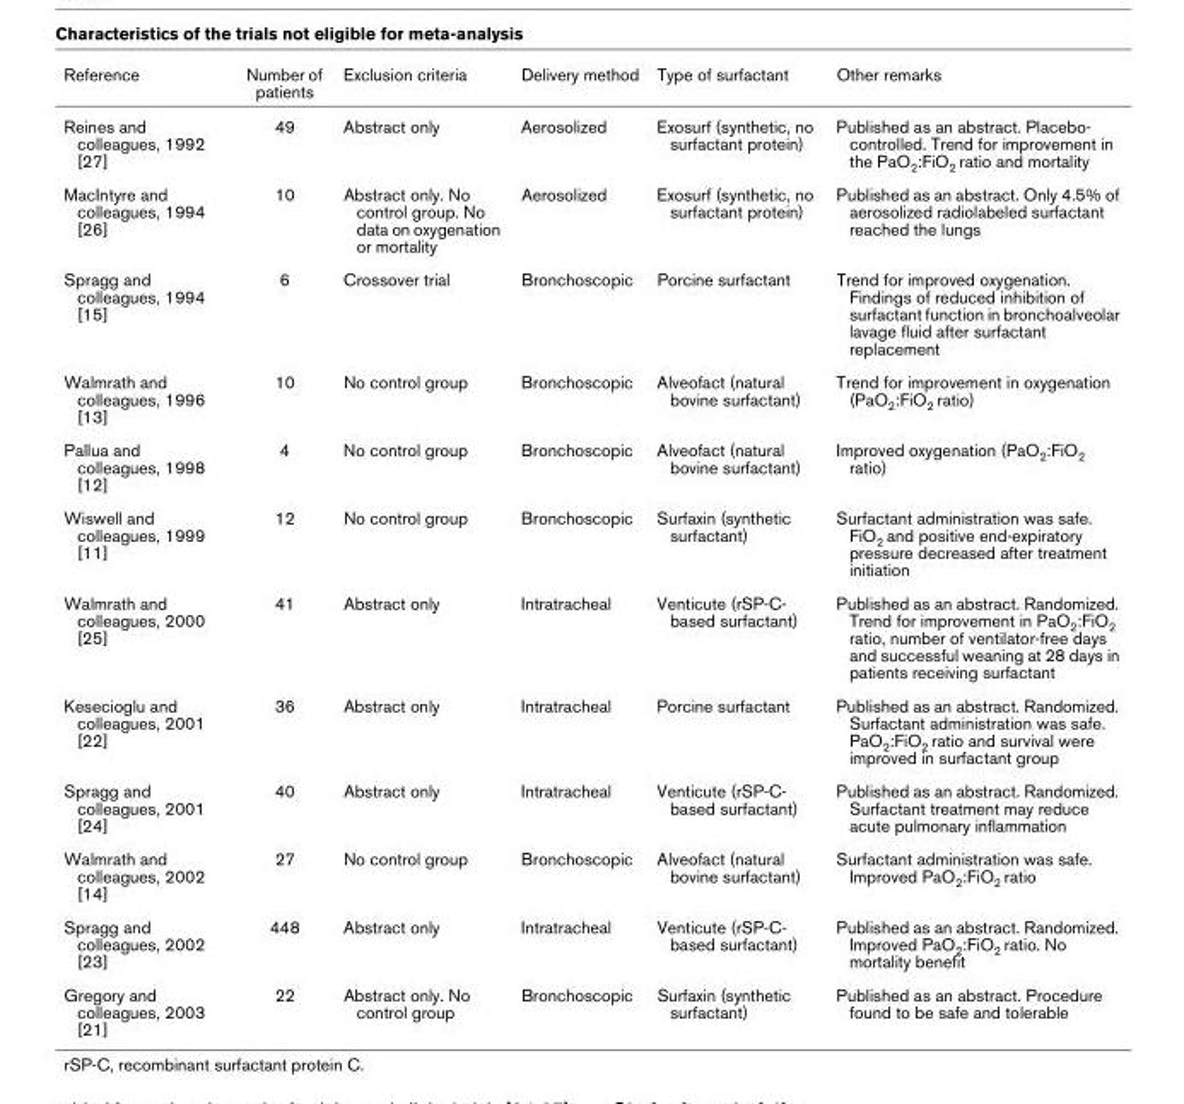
<table><thead><tr><td>Reference</td><td>Number of patients</td><td>Exclusion criteria</td><td>Delivery method</td><td>Type of surfactant</td><td>Other remarks</td></tr></thead><tbody><tr><td>Reines and colleagues, 1992 [27]</td><td>49</td><td>Abstract only</td><td>Aerosolized</td><td>Exosurf (synthetic, no surfactant protein)</td><td>Published as an abstract. Placebo- controlled. Trend for improvement in the PaO2:FiO2 ratio and mortality</td></tr><tr><td>MacIntyre and colleagues, 1994 [26]</td><td>10</td><td>Abstract only. No control group. No data on oxygenation or mortality</td><td>Aerosolized</td><td>Exosurf (synthetic, no surfactant protein)</td><td>Published as an abstract. Only 4.5% of aerosolized radiolabeled surfactant reached the lungs</td></tr><tr><td>Spragg and colleagues, 1994 [15]</td><td>6</td><td>Crossover trial</td><td>Bronchoscopic</td><td>Porcine surfactant</td><td>Trend for improved oxygenation. Findings of reduced inhibition of surfactant function in bronchoalveolar lavage fluid after surfactant replacement</td></tr><tr><td>Walmrath and colleagues, 1996 [13]</td><td>10</td><td>No control group</td><td>Bronchoscopic</td><td>Alveofact (natural bovine surfactant)</td><td>Trend for improvement in oxygenation (PaO2:FiO2 ratio)</td></tr><tr><td>Pallua and colleagues, 1998 [12]</td><td>4</td><td>No control group</td><td>Bronchoscopic</td><td>Alveofact (natural bovine surfactant)</td><td>Improved oxygenation (PaO2:FiO2 ratio)</td></tr><tr><td>Wiswell and colleagues, 1999 [11]</td><td>12</td><td>No control group</td><td>Bronchoscopic</td><td>Surfaxin (synthetic surfactant)</td><td>Surfactant administration was safe. FiO2 and positive end-expiratory pressure decreased after treatment initiation</td></tr><tr><td>Walmrath and colleagues, 2000 [25]</td><td>41</td><td>Abstract only</td><td>Intratracheal</td><td>Venticute (rSP-C- based surfactant)</td><td>Published as an abstract. Randomized. Trend for improvement in PaO2:FiO2 ratio, number of ventilator-free days and successful weaning at 28 days in patients receiving surfactant</td></tr><tr><td>Kesecioglu and colleagues, 2001 [22]</td><td>36</td><td>Abstract only</td><td>Intratracheal</td><td>Porcine surfactant</td><td>Published as an abstract. Randomized. Surfactant administration was safe. PaO2:FiO2 ratio and survival were improved in surfactant group</td></tr><tr><td>Spragg and colleagues, 2001 [24]</td><td>40</td><td>Abstract only</td><td>Intratracheal</td><td>Venticute (rSP-C- based surfactant)</td><td>Published as an abstract. Randomized. Surfactant treatment may reduce acute pulmonary inflammation</td></tr><tr><td>Walmrath and colleagues, 2002 [14]</td><td>27</td><td>No control group</td><td>Bronchoscopic</td><td>Alveofact (natural bovine surfactant)</td><td>Surfactant administration was safe. Improved PaO2:FiO2 ratio</td></tr><tr><td>Spragg and colleagues, 2002 [23]</td><td>448</td><td>Abstract only</td><td>Intratracheal</td><td>Venticute (rSP-C- based surfactant)</td><td>Published as an abstract. Randomized. Improved PaO2:FiO2 ratio. No mortality benefit</td></tr><tr><td>Gregory and colleagues, 2003 [21]</td><td>22</td><td>Abstract only. No control group</td><td>Bronchoscopic</td><td>Surfaxin (synthetic surfactant)</td><td>Published as an abstract. Procedure found to be safe and tolerable</td></tr></tbody></table>